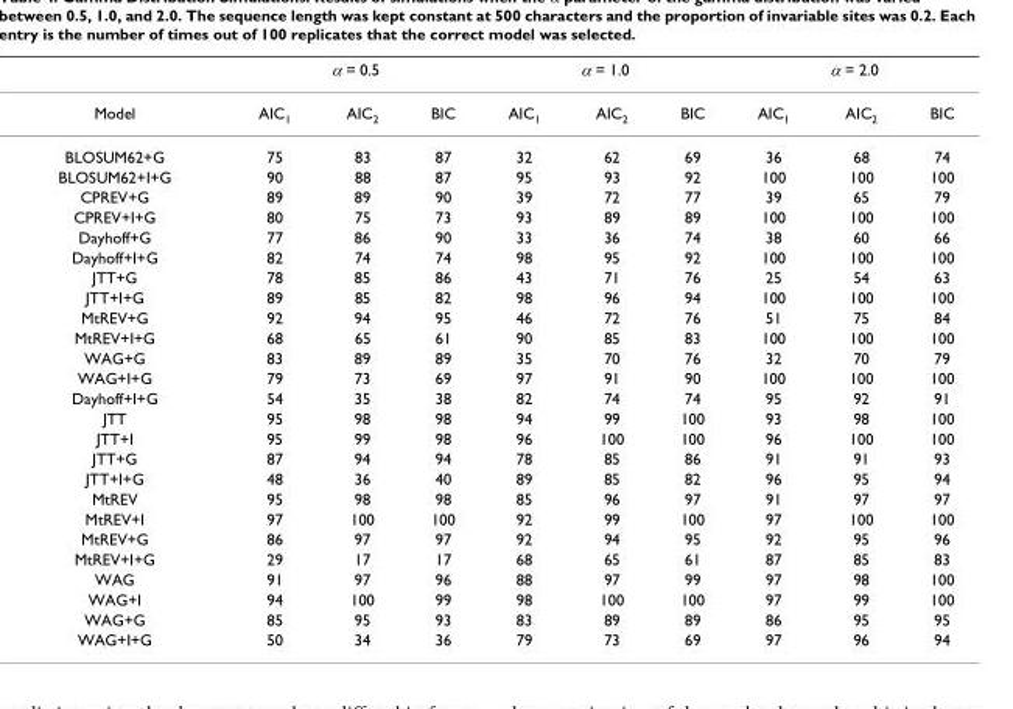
<table><thead><tr><td rowspan="2">Model</td><td colspan="3">α = 0.5</td><td colspan="3">α = 1.0</td><td colspan="3">α = 2.0</td></tr><tr><td>AIC<sub>1</sub></td><td>AIC<sub>2</sub></td><td>BIC</td><td>AIC<sub>1</sub></td><td>AIC<sub>2</sub></td><td>BIC</td><td>AIC<sub>1</sub></td><td>AIC<sub>2</sub></td><td>BIC</td></tr></thead><tbody><tr><td>BLOSUM62+G</td><td>75</td><td>83</td><td>87</td><td>32</td><td>62</td><td>69</td><td>36</td><td>68</td><td>74</td></tr><tr><td>BLOSUM62+I+G</td><td>90</td><td>88</td><td>87</td><td>95</td><td>93</td><td>92</td><td>100</td><td>100</td><td>100</td></tr><tr><td>CPREV+G</td><td>89</td><td>89</td><td>90</td><td>39</td><td>72</td><td>77</td><td>39</td><td>65</td><td>79</td></tr><tr><td>CPREV+I+G</td><td>80</td><td>75</td><td>73</td><td>93</td><td>89</td><td>89</td><td>100</td><td>100</td><td>100</td></tr><tr><td>Dayhoff+G</td><td>77</td><td>86</td><td>90</td><td>33</td><td>36</td><td>74</td><td>38</td><td>60</td><td>66</td></tr><tr><td>Dayhoff+I+G</td><td>82</td><td>74</td><td>74</td><td>98</td><td>95</td><td>92</td><td>100</td><td>100</td><td>100</td></tr><tr><td>JTT+G</td><td>78</td><td>85</td><td>86</td><td>43</td><td>71</td><td>76</td><td>25</td><td>54</td><td>63</td></tr><tr><td>JTT+I+G</td><td>89</td><td>85</td><td>82</td><td>98</td><td>96</td><td>94</td><td>100</td><td>100</td><td>100</td></tr><tr><td>MtREV+G</td><td>92</td><td>94</td><td>95</td><td>46</td><td>72</td><td>76</td><td>51</td><td>75</td><td>84</td></tr><tr><td>MtREV+I+G</td><td>68</td><td>65</td><td>61</td><td>90</td><td>85</td><td>83</td><td>100</td><td>100</td><td>100</td></tr><tr><td>WAG+G</td><td>83</td><td>89</td><td>89</td><td>35</td><td>70</td><td>76</td><td>32</td><td>70</td><td>79</td></tr><tr><td>WAG+I+G</td><td>79</td><td>73</td><td>69</td><td>97</td><td>91</td><td>90</td><td>100</td><td>100</td><td>100</td></tr><tr><td>Dayhoff+I+G</td><td>54</td><td>35</td><td>38</td><td>82</td><td>74</td><td>74</td><td>95</td><td>92</td><td>91</td></tr><tr><td>JTT</td><td>95</td><td>98</td><td>98</td><td>94</td><td>99</td><td>100</td><td>93</td><td>98</td><td>100</td></tr><tr><td>JTT+I</td><td>95</td><td>99</td><td>98</td><td>96</td><td>100</td><td>100</td><td>96</td><td>100</td><td>100</td></tr><tr><td>JTT+G</td><td>87</td><td>94</td><td>94</td><td>78</td><td>85</td><td>86</td><td>91</td><td>91</td><td>93</td></tr><tr><td>JTT+I+G</td><td>48</td><td>36</td><td>40</td><td>89</td><td>85</td><td>82</td><td>96</td><td>95</td><td>94</td></tr><tr><td>MtREV</td><td>95</td><td>98</td><td>98</td><td>85</td><td>96</td><td>97</td><td>91</td><td>97</td><td>97</td></tr><tr><td>MtREV+I</td><td>97</td><td>100</td><td>100</td><td>92</td><td>99</td><td>100</td><td>97</td><td>100</td><td>100</td></tr><tr><td>MtREV+G</td><td>86</td><td>97</td><td>97</td><td>92</td><td>94</td><td>95</td><td>92</td><td>95</td><td>96</td></tr><tr><td>MtREV+I+G</td><td>29</td><td>17</td><td>17</td><td>68</td><td>65</td><td>61</td><td>87</td><td>85</td><td>83</td></tr><tr><td>WAG</td><td>91</td><td>97</td><td>96</td><td>88</td><td>97</td><td>99</td><td>97</td><td>98</td><td>100</td></tr><tr><td>WAG+I</td><td>94</td><td>100</td><td>99</td><td>98</td><td>100</td><td>100</td><td>97</td><td>99</td><td>100</td></tr><tr><td>WAG+G</td><td>85</td><td>95</td><td>93</td><td>83</td><td>89</td><td>89</td><td>86</td><td>95</td><td>95</td></tr><tr><td>WAG+I+G</td><td>50</td><td>34</td><td>36</td><td>79</td><td>73</td><td>69</td><td>97</td><td>96</td><td>94</td></tr></tbody></table>